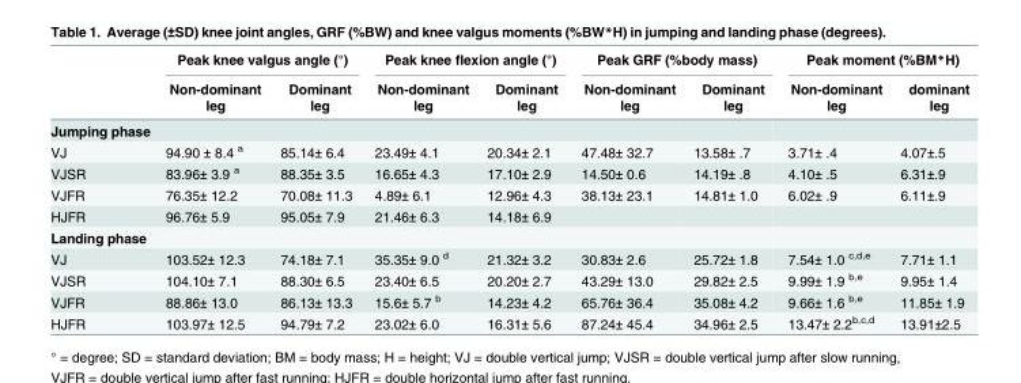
<table><thead><tr><td rowspan="2"></td><td colspan="2">Peak knee valgus angle (°)</td><td colspan="2">Peak knee flexion angle (°)</td><td colspan="2">Peak GRF (%body mass)</td><td colspan="2">Peak moment (%BM*H)</td></tr><tr><td>Non-dominant leg</td><td>Dominant leg</td><td>Non-dominant leg</td><td>Dominant leg</td><td>Non-dominant leg</td><td>Dominant leg</td><td>Non-dominant leg</td><td>dominant leg</td></tr></thead><tbody><tr><td colspan="9">Jumping phase</td></tr><tr><td>VJ</td><td>94.90 ± 8.4 <sup>a</sup></td><td>85.14± 6.4</td><td>23.49± 4.1</td><td>20.34± 2.1</td><td>47.48± 32.7</td><td>13.58± .7</td><td>3.71± .4</td><td>4.07±.5</td></tr><tr><td>VJSR</td><td>83.96± 3.9 <sup>a</sup></td><td>88.35± 3.5</td><td>16.65± 4.3</td><td>17.10± 2.9</td><td>14.50± 0.6</td><td>14.19± .8</td><td>4.10± .5</td><td>6.31±.9</td></tr><tr><td>VJFR</td><td>76.35± 12.2</td><td>70.08± 11.3</td><td>4.89± 6.1</td><td>12.96± 4.3</td><td>38.13± 23.1</td><td>14.81± 1.0</td><td>6.02± .9</td><td>6.11±.9</td></tr><tr><td>HJFR</td><td>96.76± 5.9</td><td>95.05± 7.9</td><td>21.46± 6.3</td><td>14.18± 6.9</td><td></td><td></td><td></td><td></td></tr><tr><td colspan="9">Landing phase</td></tr><tr><td>VJ</td><td>103.52± 12.3</td><td>74.18± 7.1</td><td>35.35± 9.0 <sup>d</sup></td><td>21.32± 3.2</td><td>30.83± 2.6</td><td>25.72± 1.8</td><td>7.54± 1.0 <sup>c,d,e</sup></td><td>7.71± 1.1</td></tr><tr><td>VJSR</td><td>104.10± 7.1</td><td>88.30± 6.5</td><td>23.40± 6.5</td><td>20.20± 2.7</td><td>43.29± 13.0</td><td>29.82± 2.5</td><td>9.99± 1.9 <sup>b,e</sup></td><td>9.95± 1.4</td></tr><tr><td>VJFR</td><td>88.86± 13.0</td><td>86.13± 13.3</td><td>15.6± 5.7 <sup>b</sup></td><td>14.23± 4.2</td><td>65.76± 36.4</td><td>35.08± 4.2</td><td>9.66± 1.6 <sup>b,e</sup></td><td>11.85± 1.9</td></tr><tr><td>HJFR</td><td>103.97± 12.5</td><td>94.79± 7.2</td><td>23.02± 6.0</td><td>16.31± 5.6</td><td>87.24± 45.4</td><td>34.96± 2.5</td><td>13.47± 2.2<sup>b,c,d</sup></td><td>13.91±2.5</td></tr></tbody></table>